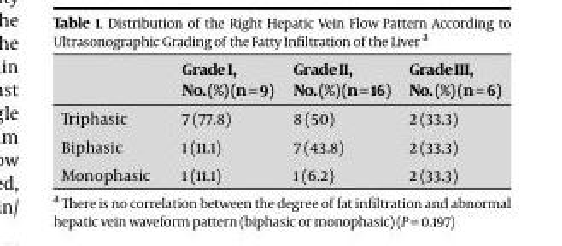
<table><thead><tr><td></td><td>Grade I, No. (%) (n = 9)</td><td>Grade II, No. (%) (n = 16)</td><td>Grade III, No. (%) (n = 6)</td></tr></thead><tbody><tr><td>Triphasic</td><td>7 (77.8)</td><td>8 (50)</td><td>2 (33.3)</td></tr><tr><td>Biphasic</td><td>1 (11.1)</td><td>7 (43.8)</td><td>2 (33.3)</td></tr><tr><td>Monophasic</td><td>1 (11.1)</td><td>1 (6.2)</td><td>2 (33.3)</td></tr></tbody></table>